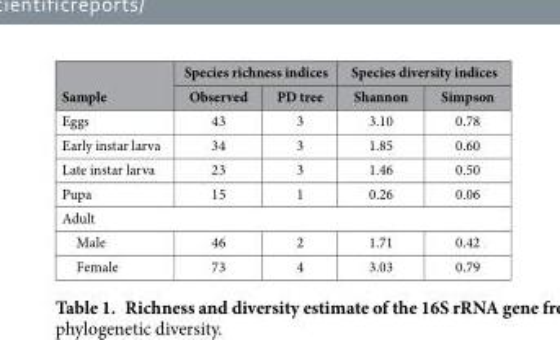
<table><thead><tr><td rowspan="2">Sample</td><td colspan="2">Species richness indices</td><td colspan="2">Species diversity indices</td></tr><tr><td>Observed</td><td>PD tree</td><td>Shannon</td><td>Simpson</td></tr></thead><tbody><tr><td>Eggs</td><td>43</td><td>3</td><td>3.10</td><td>0.78</td></tr><tr><td>Early instar larva</td><td>34</td><td>3</td><td>1.85</td><td>0.60</td></tr><tr><td>Late instar larva</td><td>23</td><td>3</td><td>1.46</td><td>0.50</td></tr><tr><td>Pupa</td><td>15</td><td>1</td><td>0.26</td><td>0.06</td></tr><tr><td colspan="5">Adult</td></tr><tr><td>Male</td><td>46</td><td>2</td><td>1.71</td><td>0.42</td></tr><tr><td>Female</td><td>73</td><td>4</td><td>3.03</td><td>0.79</td></tr></tbody></table>